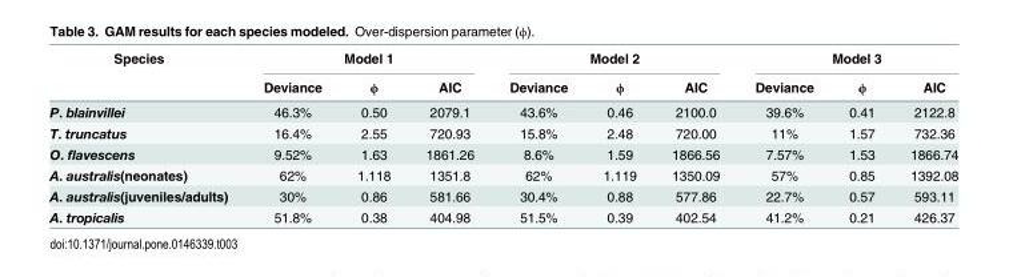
<table><thead><tr><td rowspan="2">Species</td><td colspan="3">Model 1</td><td colspan="3">Model 2</td><td colspan="3">Model 3</td></tr><tr><td>Deviance</td><td>ϕ</td><td>AIC</td><td>Deviance</td><td>ϕ</td><td>AIC</td><td>Deviance</td><td>ϕ</td><td>AIC</td></tr></thead><tbody><tr><td>P. blainvillei</td><td>46.3%</td><td>0.50</td><td>2079.1</td><td>43.6%</td><td>0.46</td><td>2100.0</td><td>39.6%</td><td>0.41</td><td>2122.8</td></tr><tr><td>T. truncatus</td><td>16.4%</td><td>2.55</td><td>720.93</td><td>15.8%</td><td>2.48</td><td>720.00</td><td>11%</td><td>1.57</td><td>732.36</td></tr><tr><td>O. flavescens</td><td>9.52%</td><td>1.63</td><td>1861.26</td><td>8.6%</td><td>1.59</td><td>1866.56</td><td>7.57%</td><td>1.53</td><td>1866.74</td></tr><tr><td>A. australis(neonates)</td><td>62%</td><td>1.118</td><td>1351.8</td><td>62%</td><td>1.119</td><td>1350.09</td><td>57%</td><td>0.85</td><td>1392.08</td></tr><tr><td>A. australis(juveniles/adults)</td><td>30%</td><td>0.86</td><td>581.66</td><td>30.4%</td><td>0.88</td><td>577.86</td><td>22.7%</td><td>0.57</td><td>593.11</td></tr><tr><td>A. tropicalis</td><td>51.8%</td><td>0.38</td><td>404.98</td><td>51.5%</td><td>0.39</td><td>402.54</td><td>41.2%</td><td>0.21</td><td>426.37</td></tr></tbody></table>